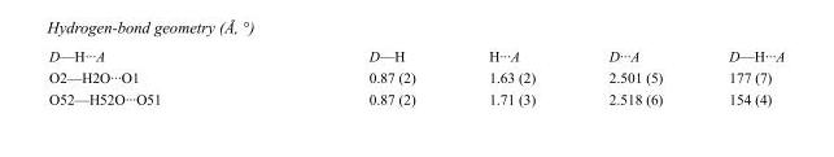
<table><tbody><tr><td>D—H···A</td><td>D—H</td><td>H···A</td><td>D···A</td><td>D—H···A</td></tr><tr><td>O2—H2O···O1</td><td>0.87 (2)</td><td>1.63 (2)</td><td>2.501 (5)</td><td>177 (7)</td></tr><tr><td>O52—H52O···O51</td><td>0.87 (2)</td><td>1.71 (3)</td><td>2.518 (6)</td><td>154 (4)</td></tr></tbody></table>